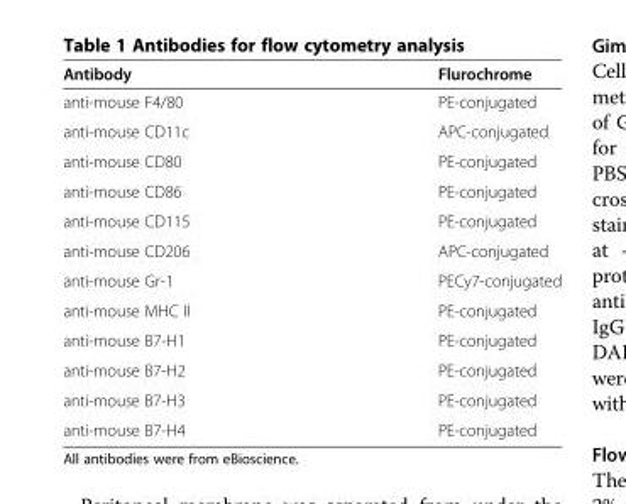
<table><thead><tr><td>Antibody</td><td>Flurochrome</td></tr></thead><tbody><tr><td>anti-mouse F4/80</td><td>PE-conjugated</td></tr><tr><td>anti-mouse CD11c</td><td>APC-conjugated</td></tr><tr><td>anti-mouse CD80</td><td>PE-conjugated</td></tr><tr><td>anti-mouse CD86</td><td>PE-conjugated</td></tr><tr><td>anti-mouse CD115</td><td>PE-conjugated</td></tr><tr><td>anti-mouse CD206</td><td>APC-conjugated</td></tr><tr><td>anti-mouse Gr-1</td><td>PECy7-conjugated</td></tr><tr><td>anti-mouse MHC II</td><td>PE-conjugated</td></tr><tr><td>anti-mouse B7-H1</td><td>PE-conjugated</td></tr><tr><td>anti-mouse B7-H2</td><td>PE-conjugated</td></tr><tr><td>anti-mouse B7-H3</td><td>PE-conjugated</td></tr><tr><td>anti-mouse B7-H4</td><td>PE-conjugated</td></tr></tbody></table>